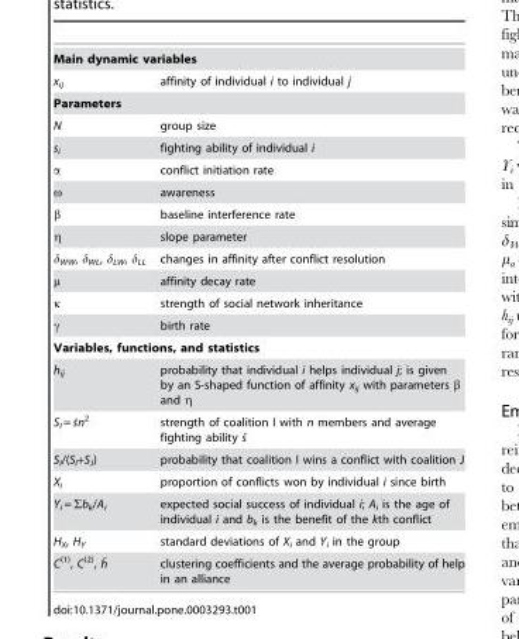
<table><tbody><tr><td colspan="2">Main dynamic variables</td></tr><tr><td>x<sub>ij</sub></td><td>affinity of individual i to individual j</td></tr><tr><td colspan="2">Parameters</td></tr><tr><td>N</td><td>group size</td></tr><tr><td>s<sub>i</sub></td><td>fighting ability of individual i</td></tr><tr><td>α</td><td>conflict initiation rate</td></tr><tr><td>ω</td><td>awareness</td></tr><tr><td>β</td><td>baseline interference rate</td></tr><tr><td>η</td><td>slope parameter</td></tr><tr><td>δ<sub>WW</sub>, δ<sub>WL</sub>, δ<sub>LW</sub>, δ<sub>LL</sub></td><td>changes in affinity after conflict resolution</td></tr><tr><td>μ</td><td>affinity decay rate</td></tr><tr><td>κ</td><td>strength of social network inheritance</td></tr><tr><td>γ</td><td>birth rate</td></tr><tr><td colspan="2">Variables, functions, and statistics</td></tr><tr><td>h<sub>ij</sub></td><td>probability that individual i helps individual j; is given by an S-shaped function of affinity x<sub>ij</sub> with parameters β and η</td></tr><tr><td>SI = s¯n2</td><td>strength of coalition I with n members and average fighting ability s¯</td></tr><tr><td>S<sub>I</sub>/(S<sub>I</sub>+S<sub>J</sub>)</td><td>probability that coalition I wins a conflict with coalition J</td></tr><tr><td>X<sub>i</sub></td><td>proportion of conflicts won by individual i since birth</td></tr><tr><td>Y<sub>i</sub> = Σb<sub>k</sub>/A<sub>i</sub></td><td>expected social success of individual i; A<sub>i</sub> is the age of individual i and b<sub>k</sub> is the benefit of the kth conflict</td></tr><tr><td>H<sub>X</sub>, H<sub>Y</sub></td><td>standard deviations of X<sub>i</sub> and Y<sub>i</sub> in the group</td></tr><tr><td>C(1), C(2), h¯</td><td>clustering coefficients and the average probability of help in an alliance</td></tr></tbody></table>